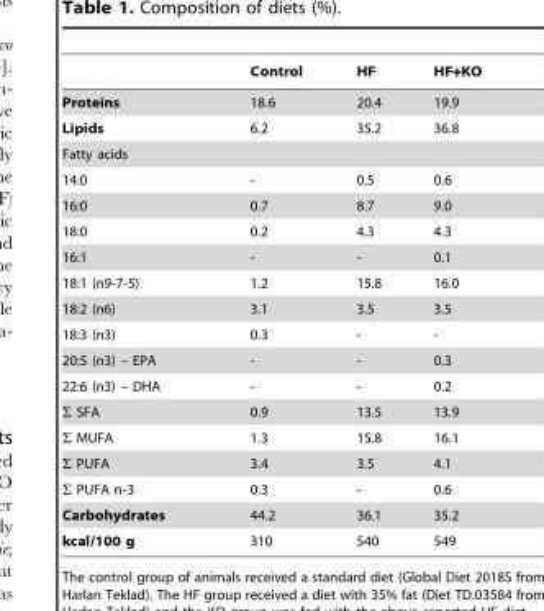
<table><thead><tr><td></td><td>Control</td><td>HF</td><td>HF+KO</td></tr></thead><tbody><tr><td>Proteins</td><td>18.6</td><td>20.4</td><td>19.9</td></tr><tr><td>Lipids</td><td>6.2</td><td>35.2</td><td>36.8</td></tr><tr><td colspan="4">Fatty acids</td></tr><tr><td>14:0</td><td>-</td><td>0.5</td><td>0.6</td></tr><tr><td>16:0</td><td>0.7</td><td>8.7</td><td>9.0</td></tr><tr><td>18:0</td><td>0.2</td><td>4.3</td><td>4.3</td></tr><tr><td>16:1</td><td>-</td><td>-</td><td>0.1</td></tr><tr><td>18:1 (n9-7-5)</td><td>1.2</td><td>15.8</td><td>16.0</td></tr><tr><td>18:2 (n6)</td><td>3.1</td><td>3.5</td><td>3.5</td></tr><tr><td>18:3 (n3)</td><td>0.3</td><td>-</td><td>-</td></tr><tr><td>20:5 (n3) – EPA</td><td>-</td><td>-</td><td>0.3</td></tr><tr><td>22:6 (n3) – DHA</td><td>-</td><td>-</td><td>0.2</td></tr><tr><td>Σ SFA</td><td>0.9</td><td>13.5</td><td>13.9</td></tr><tr><td>Σ MUFA</td><td>1.3</td><td>15.8</td><td>16.1</td></tr><tr><td>Σ PUFA</td><td>3.4</td><td>3.5</td><td>4.1</td></tr><tr><td>Σ PUFA n-3</td><td>0.3</td><td>-</td><td>0.6</td></tr><tr><td>Carbohydrates</td><td>44.2</td><td>36.1</td><td>35.2</td></tr><tr><td>kcal/100 g</td><td>310</td><td>540</td><td>549</td></tr></tbody></table>